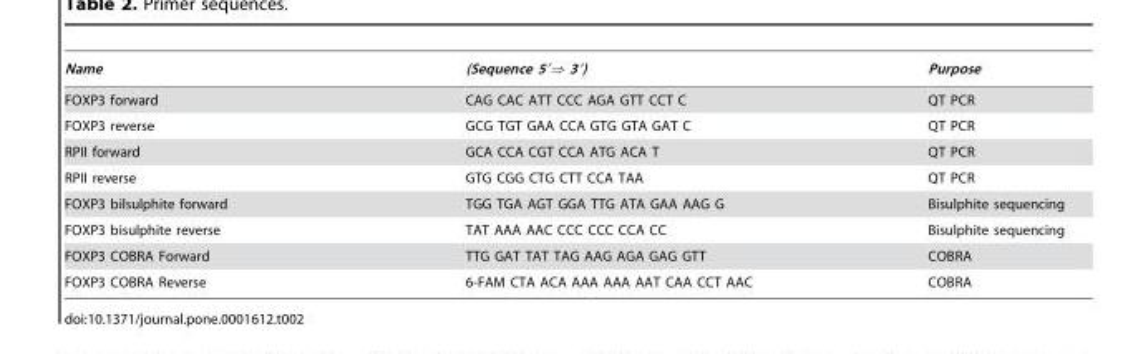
<table><thead><tr><td>Name</td><td>(Sequence 5′⇒ 3′)</td><td>Purpose</td></tr></thead><tbody><tr><td>FOXP3 forward</td><td>CAG CAC ATT CCC AGA GTT CCT C</td><td>QT PCR</td></tr><tr><td>FOXP3 reverse</td><td>GCG TGT GAA CCA GTG GTA GAT C</td><td>QT PCR</td></tr><tr><td>RPII forward</td><td>GCA CCA CGT CCA ATG ACA T</td><td>QT PCR</td></tr><tr><td>RPII reverse</td><td>GTG CGG CTG CTT CCA TAA</td><td>QT PCR</td></tr><tr><td>FOXP3 bilsulphite forward</td><td>TGG TGA AGT GGA TTG ATA GAA AAG G</td><td>Bisulphite sequencing</td></tr><tr><td>FOXP3 bisulphite reverse</td><td>TAT AAA AAC CCC CCC CCA CC</td><td>Bisulphite sequencing</td></tr><tr><td>FOXP3 COBRA Forward</td><td>TTG GAT TAT TAG AAG AGA GAG GTT</td><td>COBRA</td></tr><tr><td>FOXP3 COBRA Reverse</td><td>6-FAM CTA ACA AAA AAA AAT CAA CCT AAC</td><td>COBRA</td></tr></tbody></table>